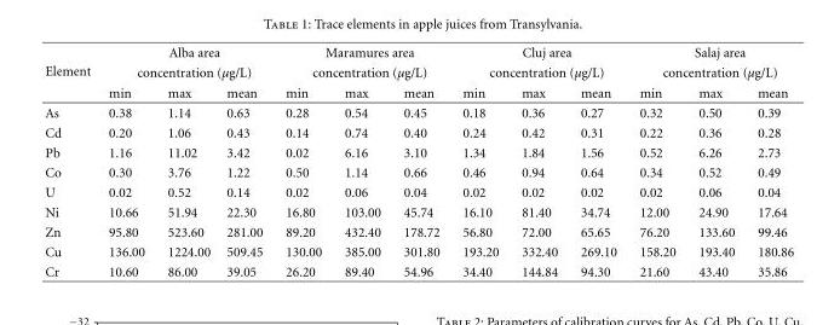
<table><thead><tr><td rowspan="3">Element</td><td rowspan="2" colspan="3">Alba area concentration (μg/L)</td><td rowspan="2" colspan="3">Maramures area concentration (μg/L)</td><td rowspan="2" colspan="3">Cluj area concentration (μg/L)</td><td rowspan="2" colspan="3">Salaj area concentration (μg/L)</td></tr><tr></tr><tr><td>min</td><td>max</td><td>mean</td><td>min</td><td>max</td><td>mean</td><td>min</td><td>max</td><td>mean</td><td>min</td><td>max</td><td>mean</td></tr></thead><tbody><tr><td>As</td><td>0.38</td><td>1.14</td><td>0.63</td><td>0.28</td><td>0.54</td><td>0.45</td><td>0.18</td><td>0.36</td><td>0.27</td><td>0.32</td><td>0.50</td><td>0.39</td></tr><tr><td>Cd</td><td>0.20</td><td>1.06</td><td>0.43</td><td>0.14</td><td>0.74</td><td>0.40</td><td>0.24</td><td>0.42</td><td>0.31</td><td>0.22</td><td>0.36</td><td>0.28</td></tr><tr><td>Pb</td><td>1.16</td><td>11.02</td><td>3.42</td><td>0.02</td><td>6.16</td><td>3.10</td><td>1.34</td><td>1.84</td><td>1.56</td><td>0.52</td><td>6.26</td><td>2.73</td></tr><tr><td>Co</td><td>0.30</td><td>3.76</td><td>1.22</td><td>0.50</td><td>1.14</td><td>0.66</td><td>0.46</td><td>0.94</td><td>0.64</td><td>0.34</td><td>0.52</td><td>0.49</td></tr><tr><td>U</td><td>0.02</td><td>0.52</td><td>0.14</td><td>0.02</td><td>0.06</td><td>0.04</td><td>0.02</td><td>0.02</td><td>0.02</td><td>0.02</td><td>0.06</td><td>0.04</td></tr><tr><td>Ni</td><td>10.66</td><td>51.94</td><td>22.30</td><td>16.80</td><td>103.00</td><td>45.74</td><td>16.10</td><td>81.40</td><td>34.74</td><td>12.00</td><td>24.90</td><td>17.64</td></tr><tr><td>Zn</td><td>95.80</td><td>523.60</td><td>281.00</td><td>89.20</td><td>432.40</td><td>178.72</td><td>56.80</td><td>72.00</td><td>65.65</td><td>76.20</td><td>133.60</td><td>99.46</td></tr><tr><td>Cu</td><td>136.00</td><td>1224.00</td><td>509.45</td><td>130.00</td><td>385.00</td><td>301.80</td><td>193.20</td><td>332.40</td><td>269.10</td><td>158.20</td><td>193.40</td><td>180.86</td></tr><tr><td>Cr</td><td>10.60</td><td>86.00</td><td>39.05</td><td>26.20</td><td>89.40</td><td>54.96</td><td>34.40</td><td>144.84</td><td>94.30</td><td>21.60</td><td>43.40</td><td>35.86</td></tr></tbody></table>